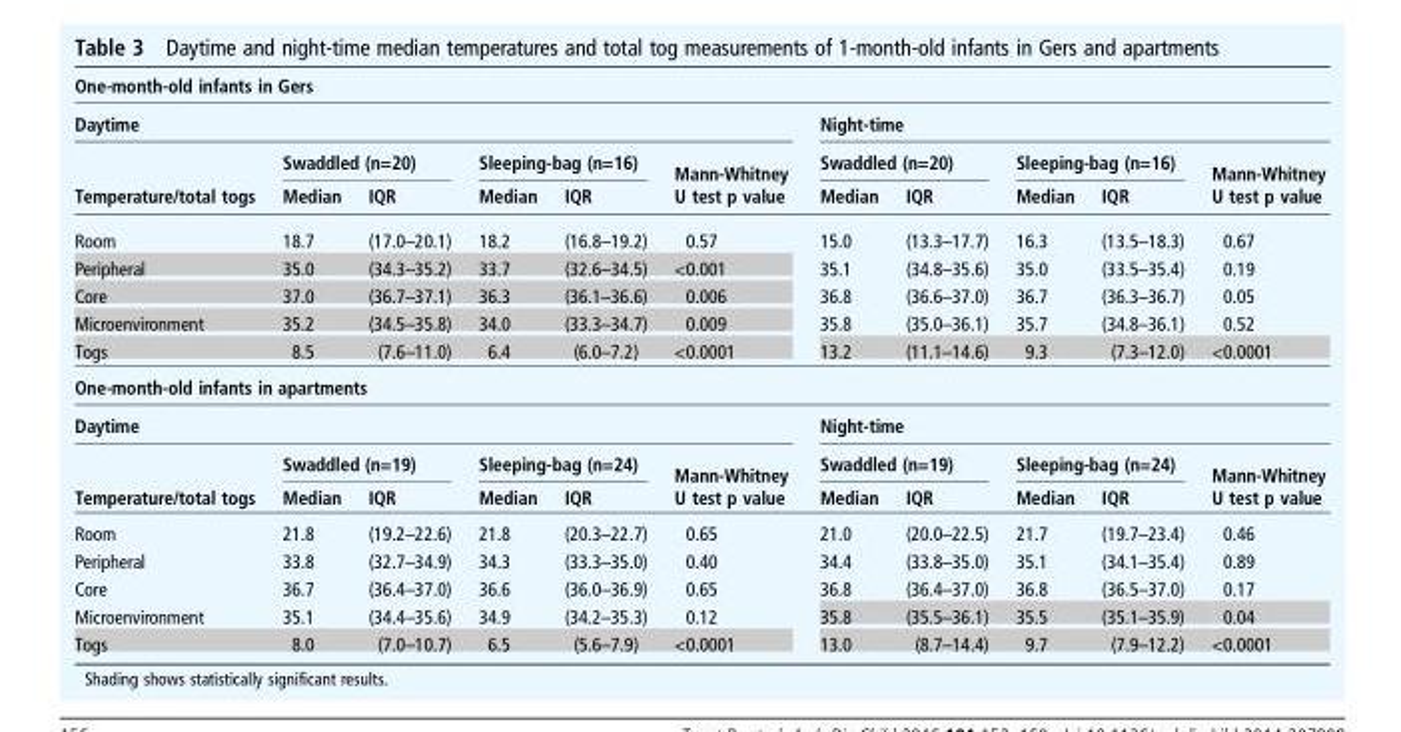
<table><thead><tr><td colspan="11">One-month-old infants in Gers</td></tr><tr><td colspan="6">Daytime</td><td colspan="5">Night-time</td></tr><tr><td rowspan="2">Temperature/total togs</td><td colspan="2">Swaddled (n=20)</td><td colspan="2">Sleeping-bag (n=16)</td><td rowspan="2">Mann-Whitney U test p value</td><td colspan="2">Swaddled (n=20)</td><td colspan="2">Sleeping-bag (n=16)</td><td rowspan="2">Mann-Whitney U test p value</td></tr><tr><td>Median</td><td>IQR</td><td>Median</td><td>IQR</td><td>Median</td><td>IQR</td><td>Median</td><td>IQR</td></tr></thead><tbody><tr><td>Room</td><td>18.7</td><td>(17.0–20.1)</td><td>18.2</td><td>(16.8–19.2)</td><td>0.57</td><td>15.0</td><td>(13.3–17.7)</td><td>16.3</td><td>(13.5–18.3)</td><td>0.67</td></tr><tr><td>Peripheral</td><td>35.0</td><td>(34.3–35.2)</td><td>33.7</td><td>(32.6–34.5)</td><td>&lt;0.001</td><td>35.1</td><td>(34.8–35.6)</td><td>35.0</td><td>(33.5–35.4)</td><td>0.19</td></tr><tr><td>Core</td><td>37.0</td><td>(36.7–37.1)</td><td>36.3</td><td>(36.1–36.6)</td><td>0.006</td><td>36.8</td><td>(36.6–37.0)</td><td>36.7</td><td>(36.3–36.7)</td><td>0.05</td></tr><tr><td>Microenvironment</td><td>35.2</td><td>(34.5–35.8)</td><td>34.0</td><td>(33.3–34.7)</td><td>0.009</td><td>35.8</td><td>(35.0–36.1)</td><td>35.7</td><td>(34.8–36.1)</td><td>0.52</td></tr><tr><td>Togs</td><td>8.5</td><td>(7.6–11.0)</td><td>6.4</td><td>(6.0–7.2)</td><td>&lt;0.0001</td><td>13.2</td><td>(11.1–14.6)</td><td>9.3</td><td>(7.3–12.0)</td><td>&lt;0.0001</td></tr><tr><td colspan="11">One-month-old infants in apartments</td></tr><tr><td colspan="6">Daytime</td><td colspan="5">Night-time</td></tr><tr><td rowspan="2">Temperature/total togs</td><td colspan="2">Swaddled (n=19)</td><td colspan="2">Sleeping-bag (n=24)</td><td rowspan="2">Mann-Whitney U test p value</td><td colspan="2">Swaddled (n=19)</td><td colspan="2">Sleeping-bag (n=24)</td><td rowspan="2">Mann-Whitney U test p value</td></tr><tr><td>Median</td><td>IQR</td><td>Median</td><td>IQR</td><td>Median</td><td>IQR</td><td>Median</td><td>IQR</td></tr><tr><td>Room</td><td>21.8</td><td>(19.2–22.6)</td><td>21.8</td><td>(20.3–22.7)</td><td>0.65</td><td>21.0</td><td>(20.0–22.5)</td><td>21.7</td><td>(19.7–23.4)</td><td>0.46</td></tr><tr><td>Peripheral</td><td>33.8</td><td>(32.7–34.9)</td><td>34.3</td><td>(33.3–35.0)</td><td>0.40</td><td>34.4</td><td>(33.8–35.0)</td><td>35.1</td><td>(34.1–35.4)</td><td>0.89</td></tr><tr><td>Core</td><td>36.7</td><td>(36.4–37.0)</td><td>36.6</td><td>(36.0–36.9)</td><td>0.65</td><td>36.8</td><td>(36.4–37.0)</td><td>36.8</td><td>(36.5–37.0)</td><td>0.17</td></tr><tr><td>Microenvironment</td><td>35.1</td><td>(34.4–35.6)</td><td>34.9</td><td>(34.2–35.3)</td><td>0.12</td><td>35.8</td><td>(35.5–36.1)</td><td>35.5</td><td>(35.1–35.9)</td><td>0.04</td></tr><tr><td>Togs</td><td>8.0</td><td>(7.0–10.7)</td><td>6.5</td><td>(5.6–7.9)</td><td>&lt;0.0001</td><td>13.0</td><td>(8.7–14.4)</td><td>9.7</td><td>(7.9–12.2)</td><td>&lt;0.0001</td></tr></tbody></table>